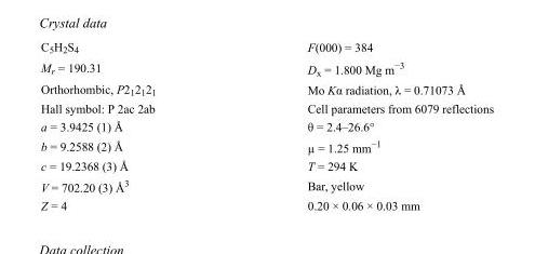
<table><tbody><tr><td>C<sub>5</sub>H<sub>2</sub>S<sub>4</sub></td><td>F(000) = 384</td></tr><tr><td>M<sub>r</sub> = 190.31</td><td>D<sub>x</sub> = 1.800 Mg m<sup>−3</sup></td></tr><tr><td>Orthorhombic, P2<sub>1</sub>2<sub>1</sub>2<sub>1</sub></td><td>Mo Kα radiation, λ = 0.71073 Å</td></tr><tr><td>Hall symbol: P 2ac 2ab</td><td>Cell parameters from 6079 reflections</td></tr><tr><td>a = 3.9425 (1) Å</td><td>θ = 2.4–26.6°</td></tr><tr><td>b = 9.2588 (2) Å</td><td>µ = 1.25 mm<sup>−1</sup></td></tr><tr><td>c = 19.2368 (3) Å</td><td>T = 294 K</td></tr><tr><td>V = 702.20 (3) Å<sup>3</sup></td><td>Bar, yellow</td></tr><tr><td>Z = 4</td><td>0.20 × 0.06 × 0.03 mm</td></tr></tbody></table>